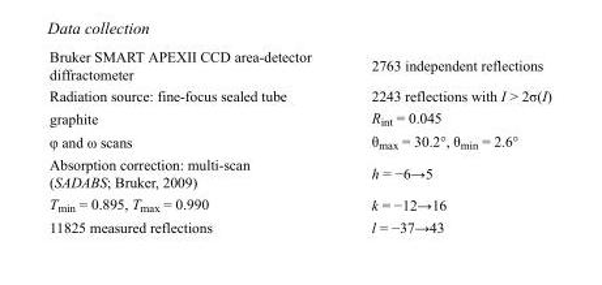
<table><tbody><tr><td>Bruker SMART APEXII CCD area-detector diffractometer</td><td>2763 independent reflections</td></tr><tr><td>Radiation source: fine-focus sealed tube</td><td>2243 reflections with I &gt; 2σ(I)</td></tr><tr><td>graphite</td><td>R<sub>int</sub> = 0.045</td></tr><tr><td>φ and ω scans</td><td>θ<sub>max</sub> = 30.2°, θ<sub>min</sub> = 2.6°</td></tr><tr><td>Absorption correction: multi-scan (SADABS; Bruker, 2009)</td><td>h = −6→5</td></tr><tr><td>T<sub>min</sub> = 0.895, T<sub>max</sub> = 0.990</td><td>k = −12→16</td></tr><tr><td>11825 measured reflections</td><td>l = −37→43</td></tr></tbody></table>